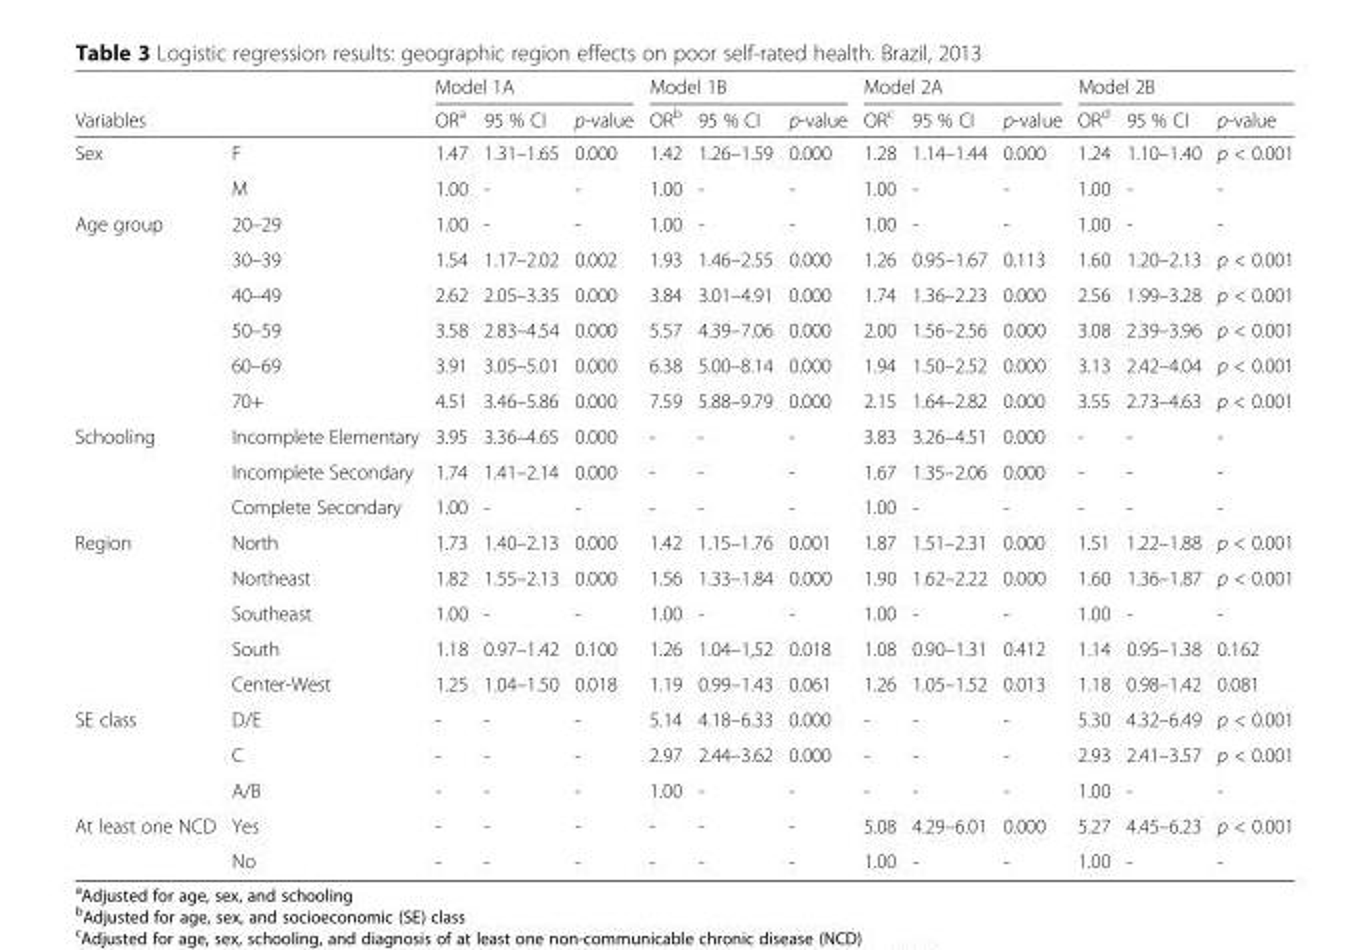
<table><thead><tr><td></td><td></td><td colspan="3">Model 1A</td><td colspan="3">Model 1B</td><td colspan="3">Model 2A</td><td colspan="3">Model 2B</td></tr><tr><td colspan="2">Variables</td><td>OR<sup>a</sup></td><td>95 % CI</td><td>p-value</td><td>OR<sup>b</sup></td><td>95 % CI</td><td>p-value</td><td>OR<sup>c</sup></td><td>95 % CI</td><td>p-value</td><td>OR<sup>d</sup></td><td>95 % CI</td><td>p-value</td></tr></thead><tbody><tr><td rowspan="2">Sex</td><td>F</td><td>1.47</td><td>1.31–1.65</td><td>0.000</td><td>1.42</td><td>1.26–1.59</td><td>0.000</td><td>1.28</td><td>1.14–1.44</td><td>0.000</td><td>1.24</td><td>1.10–1.40</td><td>p &lt; 0.001</td></tr><tr><td>M</td><td>1.00</td><td>-</td><td>-</td><td>1.00</td><td>-</td><td>-</td><td>1.00</td><td>-</td><td>-</td><td>1.00</td><td>-</td><td>-</td></tr><tr><td rowspan="6">Age group</td><td>20–29</td><td>1.00</td><td>-</td><td>-</td><td>1.00</td><td>-</td><td>-</td><td>1.00</td><td>-</td><td>-</td><td>1.00</td><td>-</td><td>-</td></tr><tr><td>30–39</td><td>1.54</td><td>1.17–2.02</td><td>0.002</td><td>1.93</td><td>1.46–2.55</td><td>0.000</td><td>1.26</td><td>0.95–1.67</td><td>0.113</td><td>1.60</td><td>1.20–2.13</td><td>p &lt; 0.001</td></tr><tr><td>40–49</td><td>2.62</td><td>2.05–3.35</td><td>0.000</td><td>3.84</td><td>3.01–4.91</td><td>0.000</td><td>1.74</td><td>1.36–2.23</td><td>0.000</td><td>2.56</td><td>1.99–3.28</td><td>p &lt; 0.001</td></tr><tr><td>50–59</td><td>3.58</td><td>2.83–4.54</td><td>0.000</td><td>5.57</td><td>4.39–7.06</td><td>0.000</td><td>2.00</td><td>1.56–2.56</td><td>0.000</td><td>3.08</td><td>2.39–3.96</td><td>p &lt; 0.001</td></tr><tr><td>60–69</td><td>3.91</td><td>3.05–5.01</td><td>0.000</td><td>6.38</td><td>5.00–8.14</td><td>0.000</td><td>1.94</td><td>1.50–2.52</td><td>0.000</td><td>3.13</td><td>2.42–4.04</td><td>p &lt; 0.001</td></tr><tr><td>70+</td><td>4.51</td><td>3.46–5.86</td><td>0.000</td><td>7.59</td><td>5.88–9.79</td><td>0.000</td><td>2.15</td><td>1.64–2.82</td><td>0.000</td><td>3.55</td><td>2.73–4.63</td><td>p &lt; 0.001</td></tr><tr><td rowspan="3">Schooling</td><td>Incomplete Elementary</td><td>3.95</td><td>3.36–4.65</td><td>0.000</td><td>-</td><td>-</td><td>-</td><td>3.83</td><td>3.26–4.51</td><td>0.000</td><td>-</td><td>-</td><td>-</td></tr><tr><td>Incomplete Secondary</td><td>1.74</td><td>1.41–2.14</td><td>0.000</td><td>-</td><td>-</td><td>-</td><td>1.67</td><td>1.35–2.06</td><td>0.000</td><td>-</td><td>-</td><td>-</td></tr><tr><td>Complete Secondary</td><td>1.00</td><td>-</td><td>-</td><td>-</td><td>-</td><td>-</td><td>1.00</td><td>-</td><td>-</td><td>-</td><td>-</td><td>-</td></tr><tr><td rowspan="5">Region</td><td>North</td><td>1.73</td><td>1.40–2.13</td><td>0.000</td><td>1.42</td><td>1.15–1.76</td><td>0.001</td><td>1.87</td><td>1.51–2.31</td><td>0.000</td><td>1.51</td><td>1.22–1.88</td><td>p &lt; 0.001</td></tr><tr><td>Northeast</td><td>1.82</td><td>1.55–2.13</td><td>0.000</td><td>1.56</td><td>1.33–1.84</td><td>0.000</td><td>1.90</td><td>1.62–2.22</td><td>0.000</td><td>1.60</td><td>1.36–1.87</td><td>p &lt; 0.001</td></tr><tr><td>Southeast</td><td>1.00</td><td>-</td><td>-</td><td>1.00</td><td>-</td><td>-</td><td>1.00</td><td>-</td><td>-</td><td>1.00</td><td>-</td><td>-</td></tr><tr><td>South</td><td>1.18</td><td>0.97–1.42</td><td>0.100</td><td>1.26</td><td>1.04–1,52</td><td>0.018</td><td>1.08</td><td>0.90–1.31</td><td>0.412</td><td>1.14</td><td>0.95–1.38</td><td>0.162</td></tr><tr><td>Center-West</td><td>1.25</td><td>1.04–1.50</td><td>0.018</td><td>1.19</td><td>0.99–1.43</td><td>0.061</td><td>1.26</td><td>1.05–1.52</td><td>0.013</td><td>1.18</td><td>0.98–1.42</td><td>0.081</td></tr><tr><td rowspan="3">SE class</td><td>D/E</td><td>-</td><td>-</td><td>-</td><td>5.14</td><td>4.18–6.33</td><td>0.000</td><td>-</td><td>-</td><td>-</td><td>5.30</td><td>4.32–6.49</td><td>p &lt; 0.001</td></tr><tr><td>C</td><td>-</td><td>-</td><td>-</td><td>2.97</td><td>2.44–3.62</td><td>0.000</td><td>-</td><td>-</td><td>-</td><td>2.93</td><td>2.41–3.57</td><td>p &lt; 0.001</td></tr><tr><td>A/B</td><td>-</td><td>-</td><td>-</td><td>1.00</td><td>-</td><td>-</td><td>-</td><td>-</td><td>-</td><td>1.00</td><td>-</td><td>-</td></tr><tr><td rowspan="2">At least one NCD</td><td>Yes</td><td>-</td><td>-</td><td>-</td><td>-</td><td>-</td><td>-</td><td>5.08</td><td>4.29–6.01</td><td>0.000</td><td>5.27</td><td>4.45–6.23</td><td>p &lt; 0.001</td></tr><tr><td>No</td><td>-</td><td>-</td><td>-</td><td>-</td><td>-</td><td>-</td><td>1.00</td><td>-</td><td>-</td><td>1.00</td><td>-</td><td>-</td></tr></tbody></table>